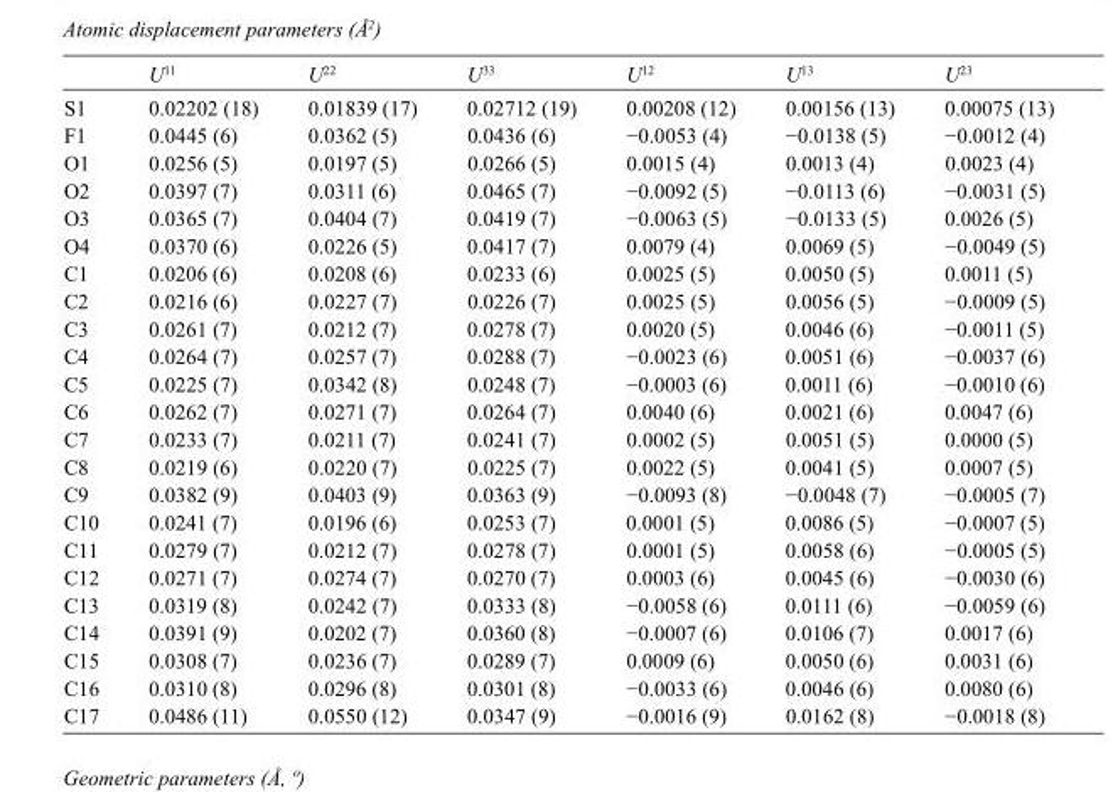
<table><thead><tr><td></td><td>U<sup>11</sup></td><td>U<sup>22</sup></td><td>U<sup>33</sup></td><td>U<sup>12</sup></td><td>U<sup>13</sup></td><td>U<sup>23</sup></td></tr></thead><tbody><tr><td>S1</td><td>0.02202 (18)</td><td>0.01839 (17)</td><td>0.02712 (19)</td><td>0.00208 (12)</td><td>0.00156 (13)</td><td>0.00075 (13)</td></tr><tr><td>F1</td><td>0.0445 (6)</td><td>0.0362 (5)</td><td>0.0436 (6)</td><td>−0.0053 (4)</td><td>−0.0138 (5)</td><td>−0.0012 (4)</td></tr><tr><td>O1</td><td>0.0256 (5)</td><td>0.0197 (5)</td><td>0.0266 (5)</td><td>0.0015 (4)</td><td>0.0013 (4)</td><td>0.0023 (4)</td></tr><tr><td>O2</td><td>0.0397 (7)</td><td>0.0311 (6)</td><td>0.0465 (7)</td><td>−0.0092 (5)</td><td>−0.0113 (6)</td><td>−0.0031 (5)</td></tr><tr><td>O3</td><td>0.0365 (7)</td><td>0.0404 (7)</td><td>0.0419 (7)</td><td>−0.0063 (5)</td><td>−0.0133 (5)</td><td>0.0026 (5)</td></tr><tr><td>O4</td><td>0.0370 (6)</td><td>0.0226 (5)</td><td>0.0417 (7)</td><td>0.0079 (4)</td><td>0.0069 (5)</td><td>−0.0049 (5)</td></tr><tr><td>C1</td><td>0.0206 (6)</td><td>0.0208 (6)</td><td>0.0233 (6)</td><td>0.0025 (5)</td><td>0.0050 (5)</td><td>0.0011 (5)</td></tr><tr><td>C2</td><td>0.0216 (6)</td><td>0.0227 (7)</td><td>0.0226 (7)</td><td>0.0025 (5)</td><td>0.0056 (5)</td><td>−0.0009 (5)</td></tr><tr><td>C3</td><td>0.0261 (7)</td><td>0.0212 (7)</td><td>0.0278 (7)</td><td>0.0020 (5)</td><td>0.0046 (6)</td><td>−0.0011 (5)</td></tr><tr><td>C4</td><td>0.0264 (7)</td><td>0.0257 (7)</td><td>0.0288 (7)</td><td>−0.0023 (6)</td><td>0.0051 (6)</td><td>−0.0037 (6)</td></tr><tr><td>C5</td><td>0.0225 (7)</td><td>0.0342 (8)</td><td>0.0248 (7)</td><td>−0.0003 (6)</td><td>0.0011 (6)</td><td>−0.0010 (6)</td></tr><tr><td>C6</td><td>0.0262 (7)</td><td>0.0271 (7)</td><td>0.0264 (7)</td><td>0.0040 (6)</td><td>0.0021 (6)</td><td>0.0047 (6)</td></tr><tr><td>C7</td><td>0.0233 (7)</td><td>0.0211 (7)</td><td>0.0241 (7)</td><td>0.0002 (5)</td><td>0.0051 (5)</td><td>0.0000 (5)</td></tr><tr><td>C8</td><td>0.0219 (6)</td><td>0.0220 (7)</td><td>0.0225 (7)</td><td>0.0022 (5)</td><td>0.0041 (5)</td><td>0.0007 (5)</td></tr><tr><td>C9</td><td>0.0382 (9)</td><td>0.0403 (9)</td><td>0.0363 (9)</td><td>−0.0093 (8)</td><td>−0.0048 (7)</td><td>−0.0005 (7)</td></tr><tr><td>C10</td><td>0.0241 (7)</td><td>0.0196 (6)</td><td>0.0253 (7)</td><td>0.0001 (5)</td><td>0.0086 (5)</td><td>−0.0007 (5)</td></tr><tr><td>C11</td><td>0.0279 (7)</td><td>0.0212 (7)</td><td>0.0278 (7)</td><td>0.0001 (5)</td><td>0.0058 (6)</td><td>−0.0005 (5)</td></tr><tr><td>C12</td><td>0.0271 (7)</td><td>0.0274 (7)</td><td>0.0270 (7)</td><td>0.0003 (6)</td><td>0.0045 (6)</td><td>−0.0030 (6)</td></tr><tr><td>C13</td><td>0.0319 (8)</td><td>0.0242 (7)</td><td>0.0333 (8)</td><td>−0.0058 (6)</td><td>0.0111 (6)</td><td>−0.0059 (6)</td></tr><tr><td>C14</td><td>0.0391 (9)</td><td>0.0202 (7)</td><td>0.0360 (8)</td><td>−0.0007 (6)</td><td>0.0106 (7)</td><td>0.0017 (6)</td></tr><tr><td>C15</td><td>0.0308 (7)</td><td>0.0236 (7)</td><td>0.0289 (7)</td><td>0.0009 (6)</td><td>0.0050 (6)</td><td>0.0031 (6)</td></tr><tr><td>C16</td><td>0.0310 (8)</td><td>0.0296 (8)</td><td>0.0301 (8)</td><td>−0.0033 (6)</td><td>0.0046 (6)</td><td>0.0080 (6)</td></tr><tr><td>C17</td><td>0.0486 (11)</td><td>0.0550 (12)</td><td>0.0347 (9)</td><td>−0.0016 (9)</td><td>0.0162 (8)</td><td>−0.0018 (8)</td></tr></tbody></table>